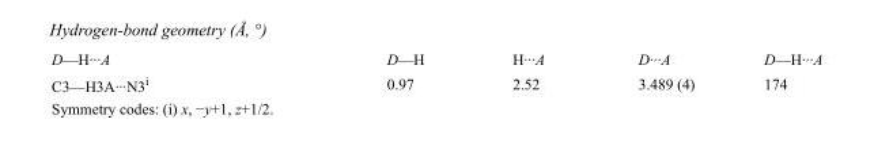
<table><tbody><tr><td>D—H···A</td><td>D—H</td><td>H···A</td><td>D···A</td><td>D—H···A</td></tr><tr><td>C3—H3A···N3<sup>i</sup></td><td>0.97</td><td>2.52</td><td>3.489 (4)</td><td>174</td></tr></tbody></table>